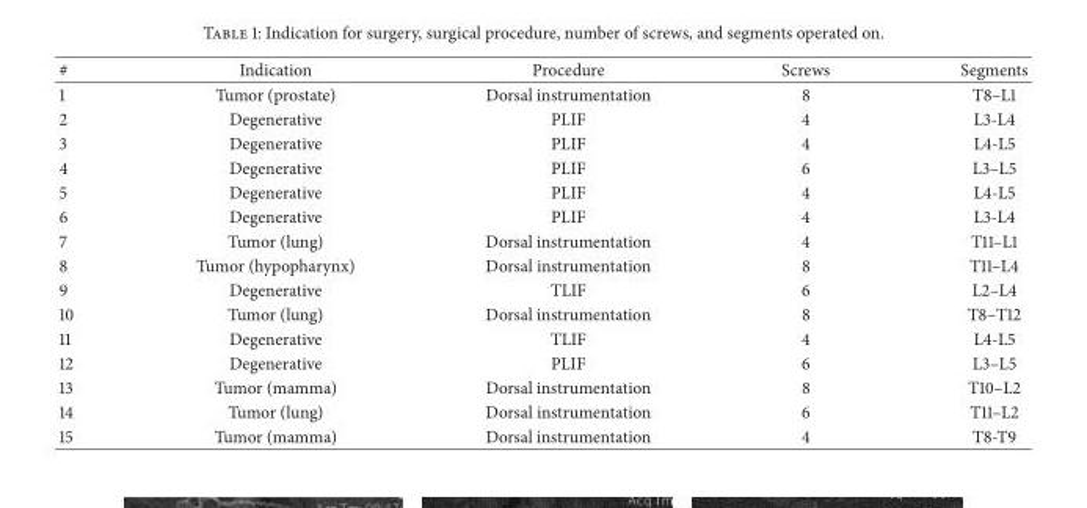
<table><thead><tr><td>#</td><td>Indication</td><td>Procedure</td><td>Screws</td><td>Segments</td></tr></thead><tbody><tr><td>1</td><td>Tumor (prostate)</td><td>Dorsal instrumentation</td><td>8</td><td>T8–L1</td></tr><tr><td>2</td><td>Degenerative</td><td>PLIF</td><td>4</td><td>L3-L4</td></tr><tr><td>3</td><td>Degenerative</td><td>PLIF</td><td>4</td><td>L4-L5</td></tr><tr><td>4</td><td>Degenerative</td><td>PLIF</td><td>6</td><td>L3–L5</td></tr><tr><td>5</td><td>Degenerative</td><td>PLIF</td><td>4</td><td>L4-L5</td></tr><tr><td>6</td><td>Degenerative</td><td>PLIF</td><td>4</td><td>L3-L4</td></tr><tr><td>7</td><td>Tumor (lung)</td><td>Dorsal instrumentation</td><td>4</td><td>T11–L1</td></tr><tr><td>8</td><td>Tumor (hypopharynx)</td><td>Dorsal instrumentation</td><td>8</td><td>T11–L4</td></tr><tr><td>9</td><td>Degenerative</td><td>TLIF</td><td>6</td><td>L2–L4</td></tr><tr><td>10</td><td>Tumor (lung)</td><td>Dorsal instrumentation</td><td>8</td><td>T8–T12</td></tr><tr><td>11</td><td>Degenerative</td><td>TLIF</td><td>4</td><td>L4-L5</td></tr><tr><td>12</td><td>Degenerative</td><td>PLIF</td><td>6</td><td>L3–L5</td></tr><tr><td>13</td><td>Tumor (mamma)</td><td>Dorsal instrumentation</td><td>8</td><td>T10–L2</td></tr><tr><td>14</td><td>Tumor (lung)</td><td>Dorsal instrumentation</td><td>6</td><td>T11–L2</td></tr><tr><td>15</td><td>Tumor (mamma)</td><td>Dorsal instrumentation</td><td>4</td><td>T8-T9</td></tr></tbody></table>